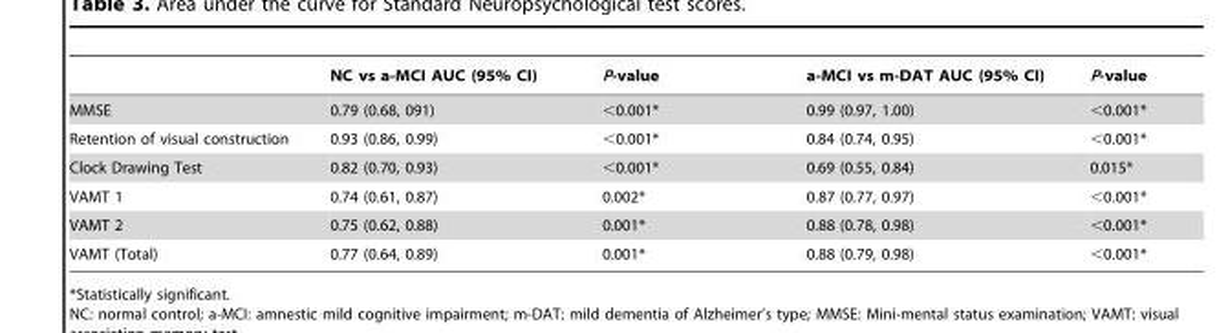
<table><thead><tr><td></td><td>NC vs a-MCI AUC (95% CI)</td><td>P-value</td><td>a-MCI vs m-DAT AUC (95% CI)</td><td>P-value</td></tr></thead><tbody><tr><td>MMSE</td><td>0.79 (0.68, 091)</td><td>&lt;0.001*</td><td>0.99 (0.97, 1.00)</td><td>&lt;0.001*</td></tr><tr><td>Retention of visual construction</td><td>0.93 (0.86, 0.99)</td><td>&lt;0.001*</td><td>0.84 (0.74, 0.95)</td><td>&lt;0.001*</td></tr><tr><td>Clock Drawing Test</td><td>0.82 (0.70, 0.93)</td><td>&lt;0.001*</td><td>0.69 (0.55, 0.84)</td><td>0.015*</td></tr><tr><td>VAMT 1</td><td>0.74 (0.61, 0.87)</td><td>0.002*</td><td>0.87 (0.77, 0.97)</td><td>&lt;0.001*</td></tr><tr><td>VAMT 2</td><td>0.75 (0.62, 0.88)</td><td>0.001*</td><td>0.88 (0.78, 0.98)</td><td>&lt;0.001*</td></tr><tr><td>VAMT (Total)</td><td>0.77 (0.64, 0.89)</td><td>0.001*</td><td>0.88 (0.79, 0.98)</td><td>&lt;0.001*</td></tr></tbody></table>